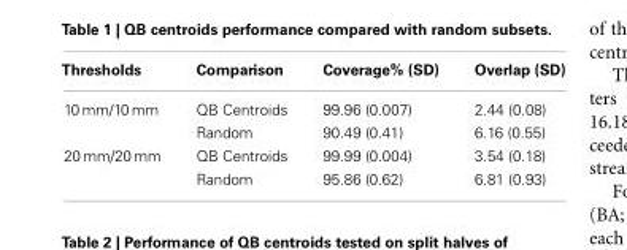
<table><thead><tr><td>Thresholds</td><td>Comparison</td><td>Coverage% (SD)</td><td>Overlap (SD)</td></tr></thead><tbody><tr><td rowspan="2">10 mm/10 mm</td><td>QB Centroids</td><td>99.96 (0.007)</td><td>2.44 (0.08)</td></tr><tr><td>Random</td><td>90.49 (0.41)</td><td>6.16 (0.55)</td></tr><tr><td rowspan="2">20 mm/20 mm</td><td>QB Centroids</td><td>99.99 (0.004)</td><td>3.54 (0.18)</td></tr><tr><td>Random</td><td>95.86 (0.62)</td><td>6.81 (0.93)</td></tr></tbody></table>